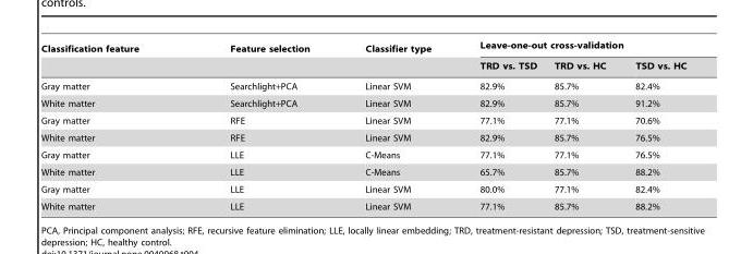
<table><thead><tr><td rowspan="2">Classification feature</td><td rowspan="2">Feature selection</td><td rowspan="2">Classifier type</td><td colspan="3">Leave-one-out cross-validation</td></tr><tr><td>TRD vs. TSD</td><td>TRD vs. HC</td><td>TSD vs. HC</td></tr></thead><tbody><tr><td>Gray matter</td><td>Searchlight+PCA</td><td>Linear SVM</td><td>82.9%</td><td>85.7%</td><td>82.4%</td></tr><tr><td>White matter</td><td>Searchlight+PCA</td><td>Linear SVM</td><td>82.9%</td><td>85.7%</td><td>91.2%</td></tr><tr><td>Gray matter</td><td>RFE</td><td>Linear SVM</td><td>77.1%</td><td>77.1%</td><td>70.6%</td></tr><tr><td>White matter</td><td>RFE</td><td>Linear SVM</td><td>82.9%</td><td>85.7%</td><td>76.5%</td></tr><tr><td>Gray matter</td><td>LLE</td><td>C-Means</td><td>77.1%</td><td>77.1%</td><td>76.5%</td></tr><tr><td>White matter</td><td>LLE</td><td>C-Means</td><td>65.7%</td><td>85.7%</td><td>88.2%</td></tr><tr><td>Gray matter</td><td>LLE</td><td>Linear SVM</td><td>80.0%</td><td>77.1%</td><td>82.4%</td></tr><tr><td>White matter</td><td>LLE</td><td>Linear SVM</td><td>77.1%</td><td>85.7%</td><td>88.2%</td></tr></tbody></table>